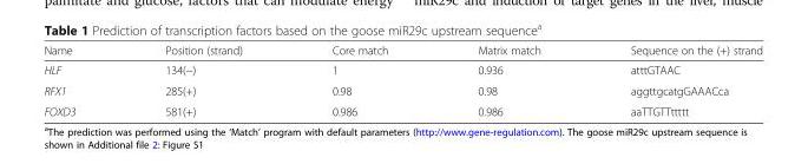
<table><thead><tr><td>Name</td><td>Position (strand)</td><td>Core match</td><td>Matrix match</td><td>Sequence on the (+) strand</td></tr></thead><tbody><tr><td>HLF</td><td>134(−)</td><td>1</td><td>0.936</td><td>atttGTAAC</td></tr><tr><td>RFX1</td><td>285(+)</td><td>0.98</td><td>0.98</td><td>aggttgcatgGAAACca</td></tr><tr><td>FOXD3</td><td>581(+)</td><td>0.986</td><td>0.986</td><td>aaTTGTTttttt</td></tr></tbody></table>